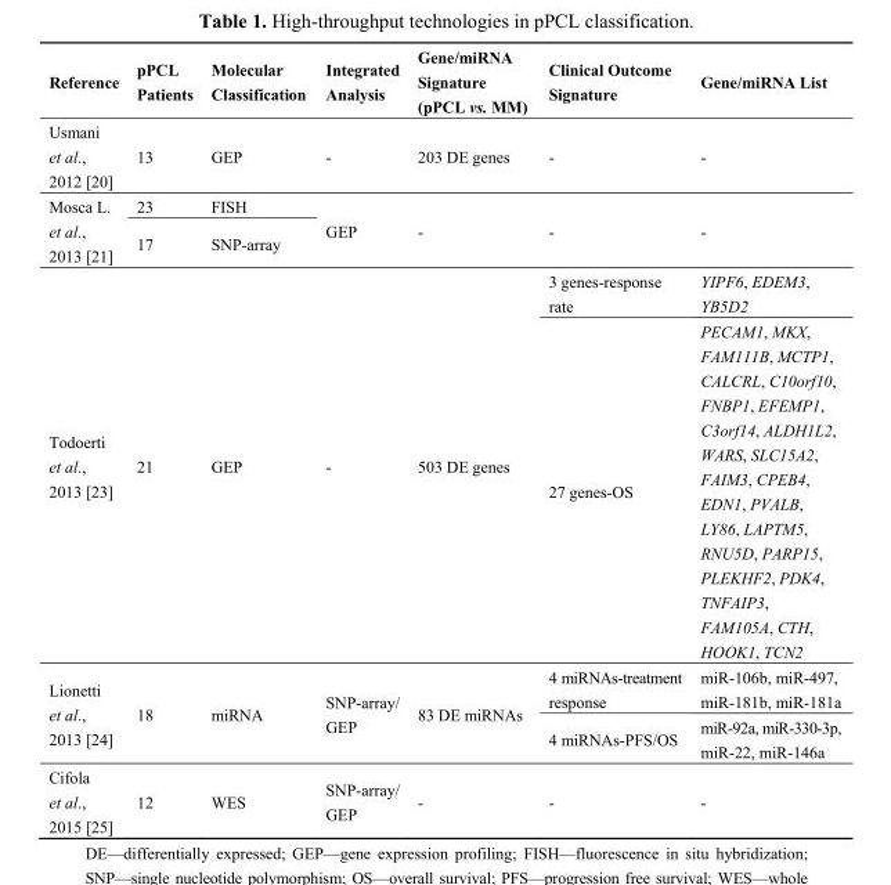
<table><thead><tr><td>Reference</td><td>pPCL Patients</td><td>Molecular Classification</td><td>Integrated Analysis</td><td>Gene/miRNA Signature (pPCL vs. MM)</td><td>Clinical Outcome Signature</td><td>Gene/miRNA List</td></tr></thead><tbody><tr><td>Usmani et al., 2012 [20]</td><td>13</td><td>GEP</td><td>-</td><td>203 DE genes</td><td>-</td><td>-</td></tr><tr><td rowspan="2">Mosca L. et al., 2013 [21]</td><td>23</td><td>FISH</td><td rowspan="2">GEP</td><td rowspan="2">-</td><td rowspan="2">-</td><td rowspan="2">-</td></tr><tr><td>17</td><td>SNP-array</td></tr><tr><td rowspan="2">Todoerti et al., 2013 [23]</td><td rowspan="2">21</td><td rowspan="2">GEP</td><td rowspan="2">-</td><td rowspan="2">503 DE genes</td><td>3 genes-response rate</td><td>YIPF6, EDEM3, YB5D2</td></tr><tr><td>27 genes-OS</td><td>PECAM1, MKX, FAM111B, MCTP1, CALCRL, C10orf10, FNBP1, EFEMP1, C3orf14, ALDH1L2, WARS, SLC15A2, FAIM3, CPEB4, EDN1, PVALB, LY86, LAPTM5, RNU5D, PARP15, PLEKHF2, PDK4, TNFAIP3, FAM105A, CTH, HOOK1, TCN2</td></tr><tr><td rowspan="2">Lionetti et al., 2013 [24]</td><td rowspan="2">18</td><td rowspan="2">miRNA</td><td rowspan="2">SNP-array/ GEP</td><td rowspan="2">83 DE miRNAs</td><td>4 miRNAs-treatment response</td><td>miR-106b, miR-497, miR-181b, miR-181a</td></tr><tr><td>4 miRNAs-PFS/OS</td><td>miR-92a, miR-330-3p, miR-22, miR-146a</td></tr><tr><td>Cifola et al., 2015 [25]</td><td>12</td><td>WES</td><td>SNP-array/ GEP</td><td>-</td><td>-</td><td>-</td></tr></tbody></table>